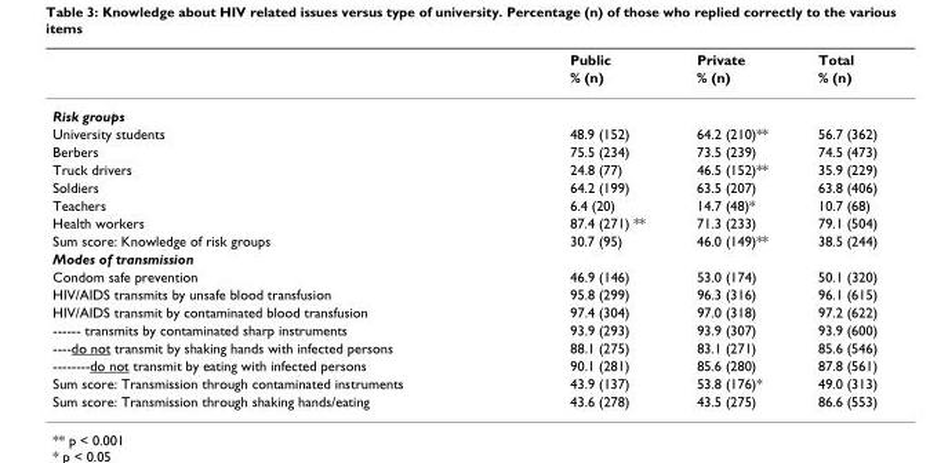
<table><thead><tr><td rowspan="2"></td><td rowspan="2">Public % (n)</td><td rowspan="2">Private % (n)</td><td rowspan="2">Total % (n)</td></tr><tr></tr></thead><tbody><tr><td colspan="4">Risk groups</td></tr><tr><td>University students</td><td>48.9 (152)</td><td>64.2 (210)**</td><td>56.7 (362)</td></tr><tr><td>Berbers</td><td>75.5 (234)</td><td>73.5 (239)</td><td>74.5 (473)</td></tr><tr><td>Truck drivers</td><td>24.8 (77)</td><td>46.5 (152)**</td><td>35.9 (229)</td></tr><tr><td>Soldiers</td><td>64.2 (199)</td><td>63.5 (207)</td><td>63.8 (406)</td></tr><tr><td>Teachers</td><td>6.4 (20)</td><td>14.7 (48)*</td><td>10.7 (68)</td></tr><tr><td>Health workers</td><td>87.4 (271) **</td><td>71.3 (233)</td><td>79.1 (504)</td></tr><tr><td>Sum score: Knowledge of risk groups</td><td>30.7 (95)</td><td>46.0 (149)**</td><td>38.5 (244)</td></tr><tr><td colspan="4">Modes of transmission</td></tr><tr><td>Condom safe prevention</td><td>46.9 (146)</td><td>53.0 (174)</td><td>50.1 (320)</td></tr><tr><td>HIV/AIDS transmits by unsafe blood transfusion</td><td>95.8 (299)</td><td>96.3 (316)</td><td>96.1 (615)</td></tr><tr><td>HIV/AIDS transmit by contaminated blood transfusion</td><td>97.4 (304)</td><td>97.0 (318)</td><td>97.2 (622)</td></tr><tr><td>------ transmits by contaminated sharp instruments</td><td>93.9 (293)</td><td>93.9 (307)</td><td>93.9 (600)</td></tr><tr><td>----do not transmit by shaking hands with infected persons</td><td>88.1 (275)</td><td>83.1 (271)</td><td>85.6 (546)</td></tr><tr><td>--------do not transmit by eating with infected persons</td><td>90.1 (281)</td><td>85.6 (280)</td><td>87.8 (561)</td></tr><tr><td>Sum score: Transmission through contaminated instruments</td><td>43.9 (137)</td><td>53.8 (176)*</td><td>49.0 (313)</td></tr><tr><td>Sum score: Transmission through shaking hands/eating</td><td>43.6 (278)</td><td>43.5 (275)</td><td>86.6 (553)</td></tr></tbody></table>